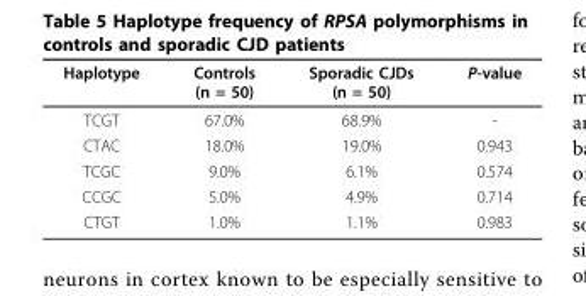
<table><thead><tr><td>Haplotype</td><td>Controls (n = 50)</td><td>Sporadic CJDs (n = 50)</td><td>P-value</td></tr></thead><tbody><tr><td>TCGT</td><td>67.0%</td><td>68.9%</td><td>-</td></tr><tr><td>CTAC</td><td>18.0%</td><td>19.0%</td><td>0.943</td></tr><tr><td>TCGC</td><td>9.0%</td><td>6.1%</td><td>0.574</td></tr><tr><td>CCGC</td><td>5.0%</td><td>4.9%</td><td>0.714</td></tr><tr><td>CTGT</td><td>1.0%</td><td>1.1%</td><td>0.983</td></tr></tbody></table>